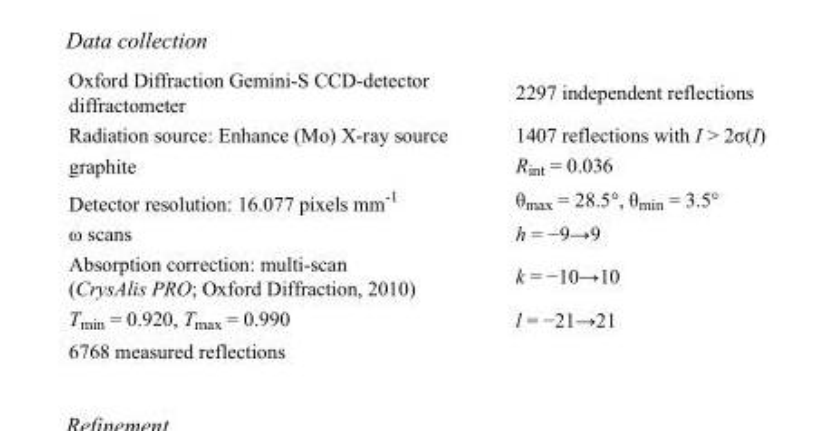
<table><tbody><tr><td>Oxford Diffraction Gemini-S CCD-detector diffractometer</td><td>2297 independent reflections</td></tr><tr><td>Radiation source: Enhance (Mo) X-ray source</td><td>1407 reflections with I &gt; 2σ(I)</td></tr><tr><td>graphite</td><td>R<sub>int</sub> = 0.036</td></tr><tr><td>Detector resolution: 16.077 pixels mm<sup>-1</sup></td><td>θ<sub>max</sub> = 28.5°, θ<sub>min</sub> = 3.5°</td></tr><tr><td>ω scans</td><td>h = −9→9</td></tr><tr><td>Absorption correction: multi-scan (CrysAlis PRO; Oxford Diffraction, 2010)</td><td>k = −10→10</td></tr><tr><td>T<sub>min</sub> = 0.920, T<sub>max</sub> = 0.990</td><td>l = −21→21</td></tr><tr><td>6768 measured reflections</td><td></td></tr></tbody></table>